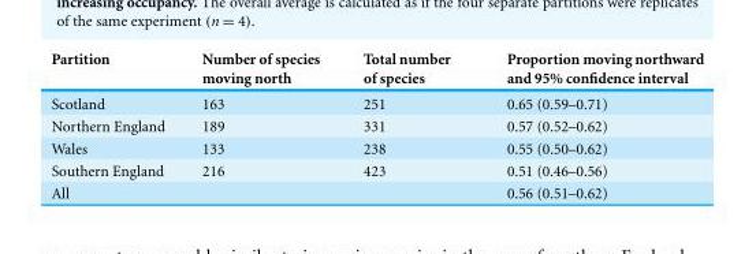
<table><thead><tr><td>Partition</td><td>Number of species moving north</td><td>Total number of species</td><td>Proportion moving northward and 95% confidence interval</td></tr></thead><tbody><tr><td>Scotland</td><td>163</td><td>251</td><td>0.65 (0.59–0.71)</td></tr><tr><td>Northern England</td><td>189</td><td>331</td><td>0.57 (0.52–0.62)</td></tr><tr><td>Wales</td><td>133</td><td>238</td><td>0.55 (0.50–0.62)</td></tr><tr><td>Southern England</td><td>216</td><td>423</td><td>0.51 (0.46–0.56)</td></tr><tr><td>All</td><td></td><td></td><td>0.56 (0.51–0.62)</td></tr></tbody></table>